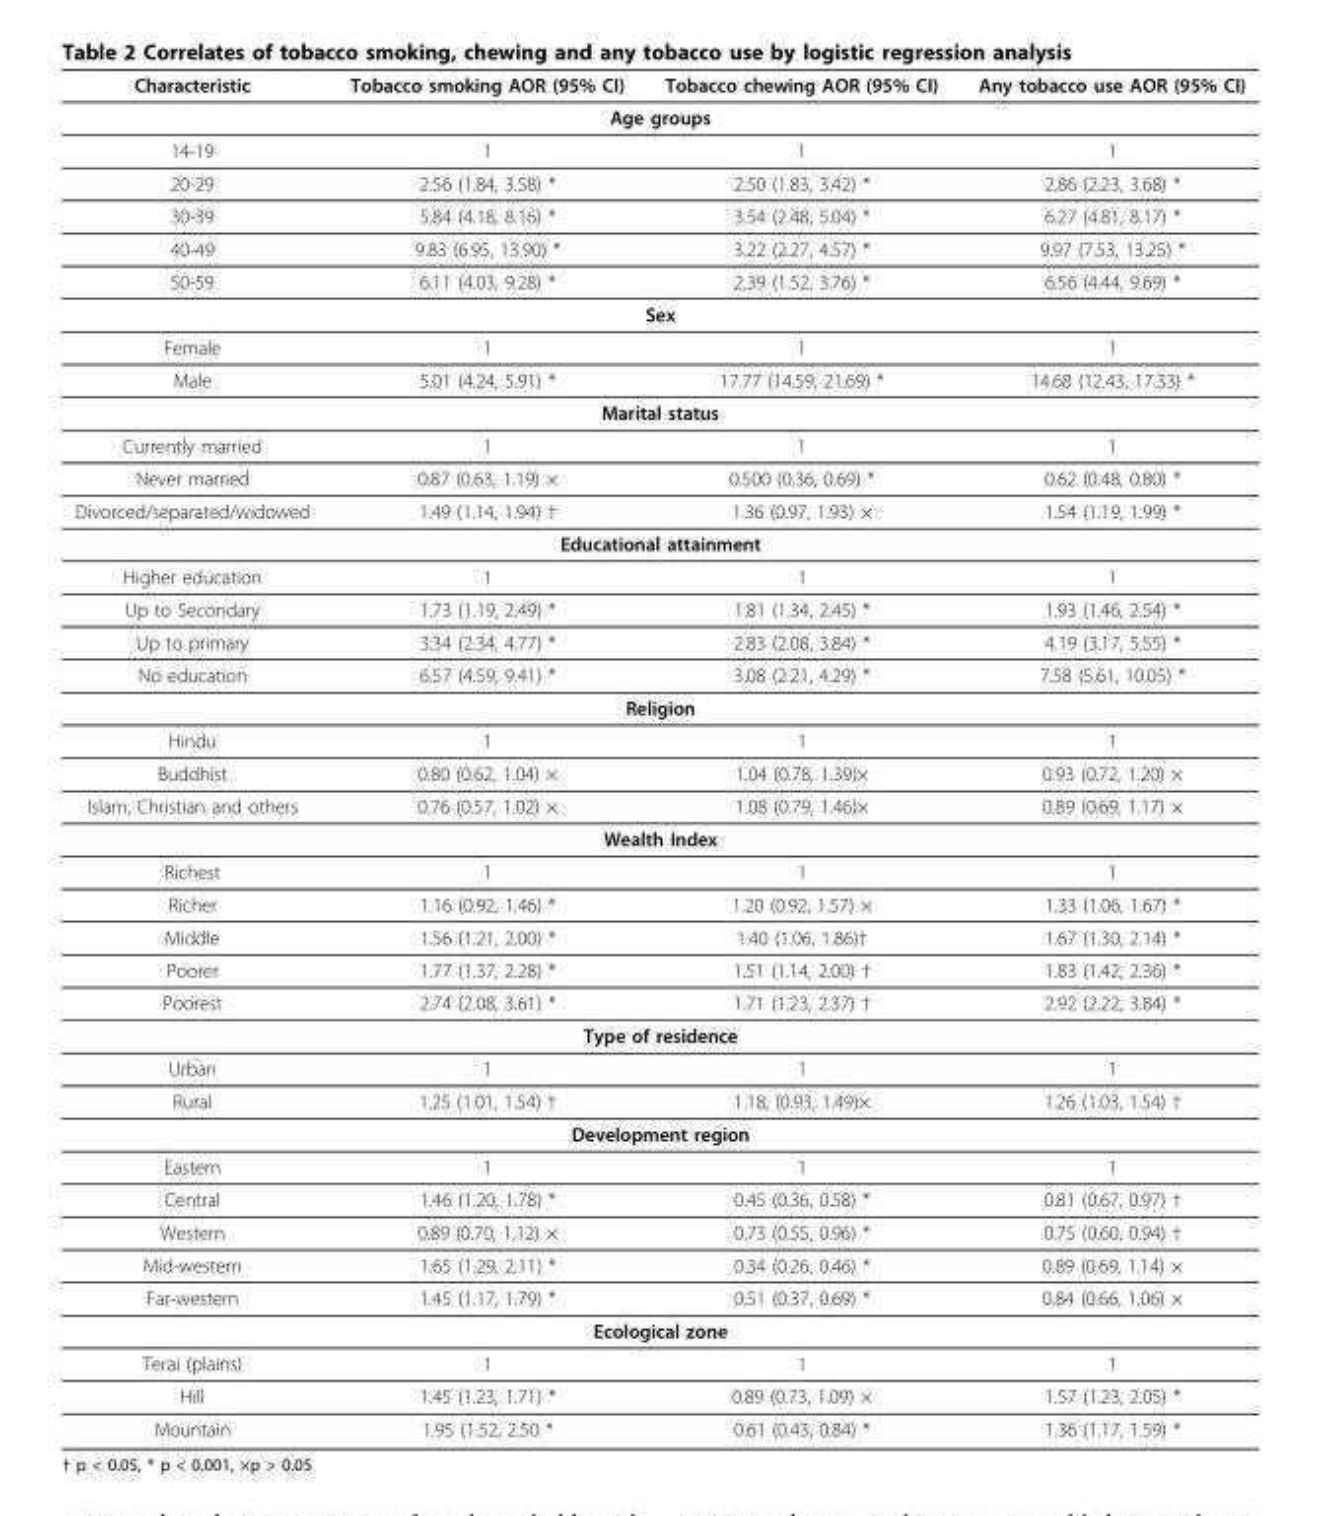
<table><thead><tr><td>Characteristic</td><td>Tobacco smoking AOR (95% CI)</td><td>Tobacco chewing AOR (95% CI)</td><td>Any tobacco use AOR (95% CI)</td></tr></thead><tbody><tr><td colspan="4">Age groups</td></tr><tr><td>14-19</td><td>1</td><td>1</td><td>1</td></tr><tr><td>20-29</td><td>2.56 (1.84, 3.58) *</td><td>2.50 (1.83, 3.42) *</td><td>2.86 (2.23, 3.68) *</td></tr><tr><td>30-39</td><td>5.84 (4.18, 8.16) *</td><td>3.54 (2.48, 5.04) *</td><td>6.27 (4.81, 8.17) *</td></tr><tr><td>40-49</td><td>9.83 (6.95, 13.90) *</td><td>3.22 (2.27, 4.57) *</td><td>9.97 (7.53, 13.25) *</td></tr><tr><td>50-59</td><td>6.11 (4.03, 9.28) *</td><td>2.39 (1.52, 3.76) *</td><td>6.56 (4.44, 9.69) *</td></tr><tr><td colspan="4">Sex</td></tr><tr><td>Female</td><td>1</td><td>1</td><td>1</td></tr><tr><td>Male</td><td>5.01 (4.24, 5.91) *</td><td>17.77 (14.59, 21.69) *</td><td>14.68 (12.43, 17.33) *</td></tr><tr><td colspan="4">Marital status</td></tr><tr><td>Currently married</td><td>1</td><td>1</td><td>1</td></tr><tr><td>Never married</td><td>0.87 (0.63, 1.19) ×</td><td>0.500 (0.36, 0.69) *</td><td>0.62 (0.48, 0.80) *</td></tr><tr><td>Divorced/separated/widowed</td><td>1.49 (1.14, 1.94) †</td><td>1.36 (0.97, 1.93) ×</td><td>1.54 (1.19, 1.99) *</td></tr><tr><td colspan="4">Educational attainment</td></tr><tr><td>Higher education</td><td>1</td><td>1</td><td>1</td></tr><tr><td>Up to Secondary</td><td>1.73 (1.19, 2.49) *</td><td>1.81 (1.34, 2.45) *</td><td>1.93 (1.46, 2.54) *</td></tr><tr><td>Up to primary</td><td>3.34 (2.34, 4.77) *</td><td>2.83 (2.08, 3.84) *</td><td>4.19 (3.17, 5.55) *</td></tr><tr><td>No education</td><td>6.57 (4.59, 9.41) *</td><td>3.08 (2.21, 4.29) *</td><td>7.58 (5.61, 10.05) *</td></tr><tr><td colspan="4">Religion</td></tr><tr><td>Hindu</td><td>1</td><td>1</td><td>1</td></tr><tr><td>Buddhist</td><td>0.80 (0.62, 1.04) ×</td><td>1.04 (0.78, 1.39)×</td><td>0.93 (0.72, 1.20) ×</td></tr><tr><td>Islam, Christian and others</td><td>0.76 (0.57, 1.02) ×</td><td>1.08 (0.79, 1.46)×</td><td>0.89 (0.69, 1.17) ×</td></tr><tr><td colspan="4">Wealth Index</td></tr><tr><td>Richest</td><td>1</td><td>1</td><td>1</td></tr><tr><td>Richer</td><td>1.16 (0.92, 1.46) *</td><td>1.20 (0.92, 1.57) ×</td><td>1.33 (1.06, 1.67) *</td></tr><tr><td>Middle</td><td>1.56 (1.21, 2.00) *</td><td>1.40 (1.06, 1.86)†</td><td>1.67 (1.30, 2.14) *</td></tr><tr><td>Poorer</td><td>1.77 (1.37, 2.28) *</td><td>1.51 (1.14, 2.00) †</td><td>1.83 (1.42, 2.36) *</td></tr><tr><td>Poorest</td><td>2.74 (2.08, 3.61) *</td><td>1.71 (1.23, 2.37) †</td><td>2.92 (2.22, 3.84) *</td></tr><tr><td colspan="4">Type of residence</td></tr><tr><td>Urban</td><td>1</td><td>1</td><td>1</td></tr><tr><td>Rural</td><td>1.25 (1.01, 1.54) †</td><td>1.18, (0.93, 1.49)×</td><td>1.26 (1.03, 1.54) †</td></tr><tr><td colspan="4">Development region</td></tr><tr><td>Eastern</td><td>1</td><td>1</td><td>1</td></tr><tr><td>Central</td><td>1.46 (1.20, 1.78) *</td><td>0.45 (0.36, 0.58) *</td><td>0.81 (0.67, 0.97) †</td></tr><tr><td>Western</td><td>0.89 (0.70, 1.12) ×</td><td>0.73 (0.55, 0.96) *</td><td>0.75 (0.60, 0.94) †</td></tr><tr><td>Mid-western</td><td>1.65 (1.29, 2.11) *</td><td>0.34 (0.26, 0.46) *</td><td>0.89 (0.69, 1.14) ×</td></tr><tr><td>Far-western</td><td>1.45 (1.17, 1.79) *</td><td>0.51 (0.37, 0.69) *</td><td>0.84 (0.66, 1.06) ×</td></tr><tr><td colspan="4">Ecological zone</td></tr><tr><td>Terai (plains)</td><td>1</td><td>1</td><td>1</td></tr><tr><td>Hill</td><td>1.45 (1.23, 1.71) *</td><td>0.89 (0.73, 1.09) ×</td><td>1.57 (1.23, 2.05) *</td></tr><tr><td>Mountain</td><td>1.95 (1.52, 2.50 *</td><td>0.61 (0.43, 0.84) *</td><td>1.36 (1.17, 1.59) *</td></tr></tbody></table>